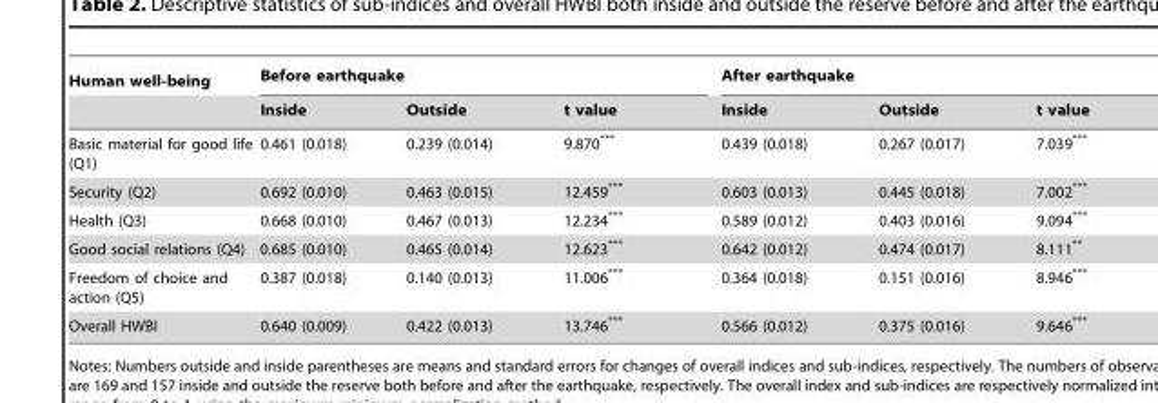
<table><thead><tr><td rowspan="2">Human well-being</td><td colspan="3">Before earthquake</td><td colspan="3">After earthquake</td></tr><tr><td>Inside</td><td>Outside</td><td>t value</td><td>Inside</td><td>Outside</td><td>t value</td></tr></thead><tbody><tr><td>Basic material for good life (Q1)</td><td>0.461 (0.018)</td><td>0.239 (0.014)</td><td>9.870***</td><td>0.439 (0.018)</td><td>0.267 (0.017)</td><td>7.039***</td></tr><tr><td>Security (Q2)</td><td>0.692 (0.010)</td><td>0.463 (0.015)</td><td>12.459***</td><td>0.603 (0.013)</td><td>0.445 (0.018)</td><td>7.002***</td></tr><tr><td>Health (Q3)</td><td>0.668 (0.010)</td><td>0.467 (0.013)</td><td>12.234***</td><td>0.589 (0.012)</td><td>0.403 (0.016)</td><td>9.094***</td></tr><tr><td>Good social relations (Q4)</td><td>0.685 (0.010)</td><td>0.465 (0.014)</td><td>12.623***</td><td>0.642 (0.012)</td><td>0.474 (0.017)</td><td>8.111**</td></tr><tr><td>Freedom of choice and action (Q5)</td><td>0.387 (0.018)</td><td>0.140 (0.013)</td><td>11.006***</td><td>0.364 (0.018)</td><td>0.151 (0.016)</td><td>8.946***</td></tr><tr><td>Overall HWBI</td><td>0.640 (0.009)</td><td>0.422 (0.013)</td><td>13.746***</td><td>0.566 (0.012)</td><td>0.375 (0.016)</td><td>9.646***</td></tr></tbody></table>